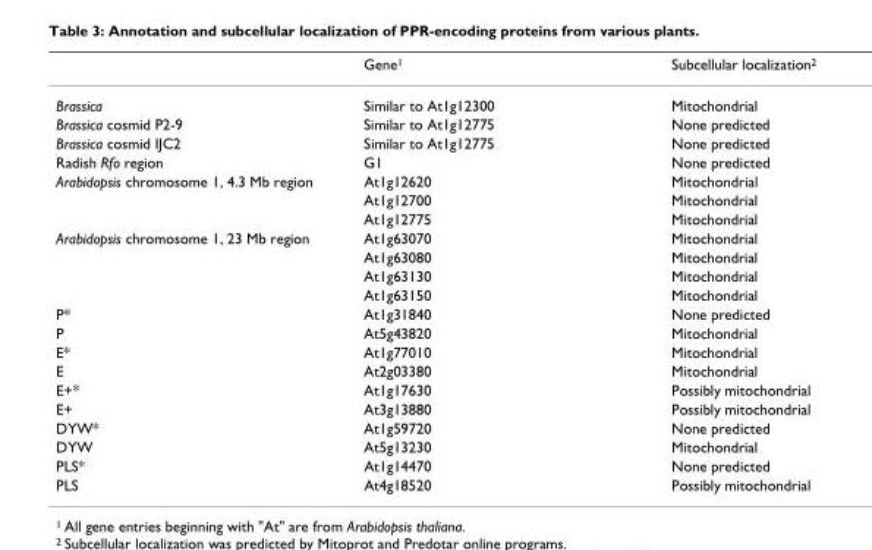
<table><thead><tr><td></td><td>Gene1</td><td>Subcellular localization2</td></tr></thead><tbody><tr><td>Brassica</td><td>Similar to At1g12300</td><td>Mitochondrial</td></tr><tr><td>Brassica cosmid P2-9</td><td>Similar to At1g12775</td><td>None predicted</td></tr><tr><td>Brassica cosmid IJC2</td><td>Similar to At1g12775</td><td>None predicted</td></tr><tr><td>Radish Rfo region</td><td>G1</td><td>None predicted</td></tr><tr><td rowspan="3">Arabidopsis chromosome 1, 4.3 Mb region</td><td>At1g12620</td><td>Mitochondrial</td></tr><tr><td>At1g12700</td><td>Mitochondrial</td></tr><tr><td>At1g12775</td><td>Mitochondrial</td></tr><tr><td rowspan="4">Arabidopsis chromosome 1, 23 Mb region</td><td>At1g63070</td><td>Mitochondrial</td></tr><tr><td>At1g63080</td><td>Mitochondrial</td></tr><tr><td>At1g63130</td><td>Mitochondrial</td></tr><tr><td>At1g63150</td><td>Mitochondrial</td></tr><tr><td>P*</td><td>At1g31840</td><td>None predicted</td></tr><tr><td>P</td><td>At5g43820</td><td>Mitochondrial</td></tr><tr><td>E*</td><td>At1g77010</td><td>Mitochondrial</td></tr><tr><td>E</td><td>At2g03380</td><td>Mitochondrial</td></tr><tr><td>E+*</td><td>At1g17630</td><td>Possibly mitochondrial</td></tr><tr><td>E+</td><td>At3g13880</td><td>Possibly mitochondrial</td></tr><tr><td>DYW*</td><td>At1g59720</td><td>None predicted</td></tr><tr><td>DYW</td><td>At5g13230</td><td>Mitochondrial</td></tr><tr><td>PLS*</td><td>At1g14470</td><td>None predicted</td></tr><tr><td>PLS</td><td>At4g18520</td><td>Possibly mitochondrial</td></tr></tbody></table>